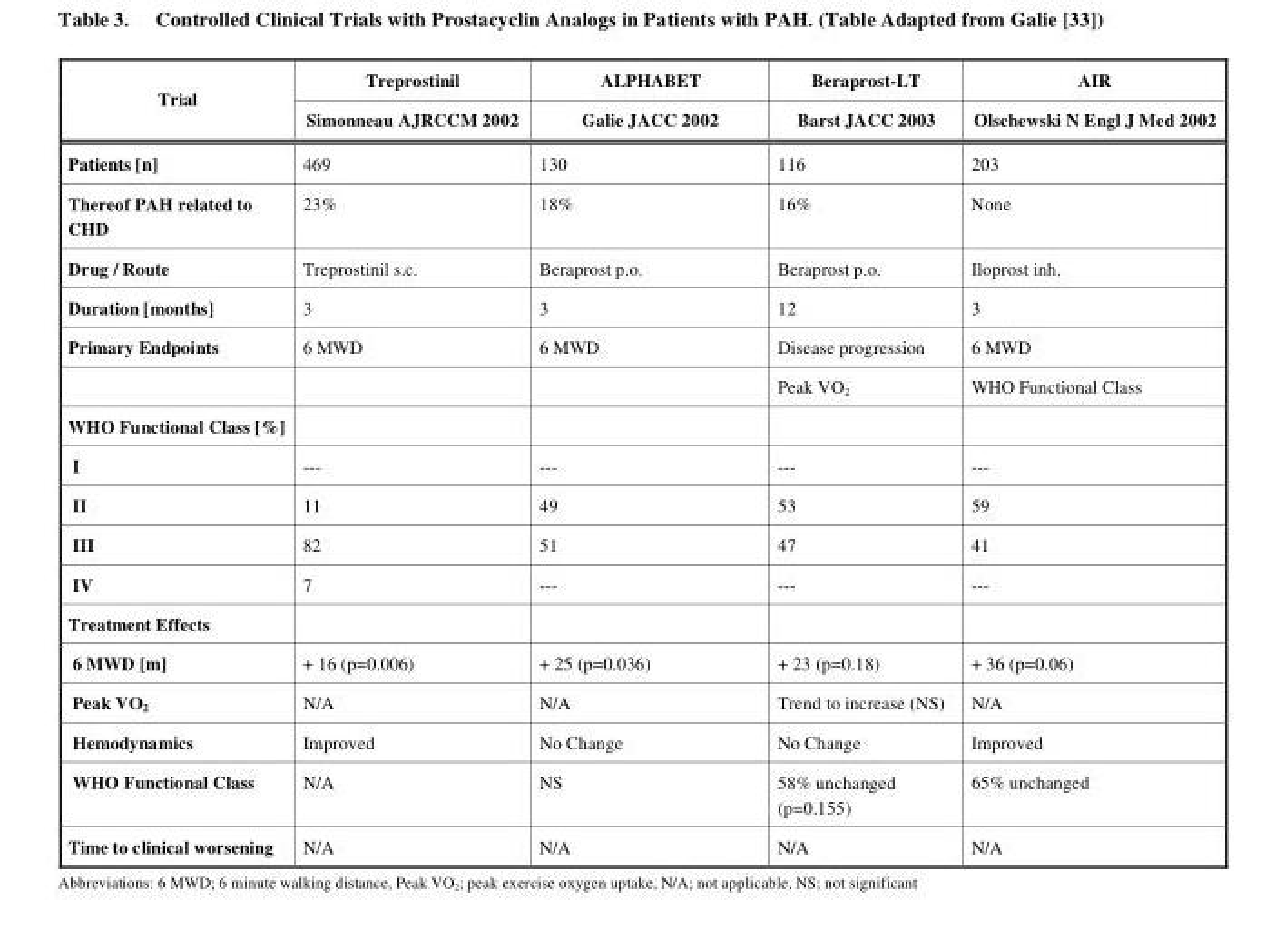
<table><thead><tr><td rowspan="2">Trial</td><td rowspan="2">Treprostinil Simonneau AJRCCM 2002</td><td rowspan="2">ALPHABET Galie JACC 2002</td><td rowspan="2">Beraprost-LT Barst JACC 2003</td><td rowspan="2">AIR Olschewski N Engl J Med 2002</td></tr><tr></tr></thead><tbody><tr><td>Patients [n]</td><td>469</td><td>130</td><td>116</td><td>203</td></tr><tr><td>Thereof PAH related to CHD</td><td>23%</td><td>18%</td><td>16%</td><td>None</td></tr><tr><td>Drug / Route</td><td>Treprostinil s.c.</td><td>Beraprost p.o.</td><td>Beraprost p.o.</td><td>Iloprost inh.</td></tr><tr><td>Duration [months]</td><td>3</td><td>3</td><td>12</td><td>3</td></tr><tr><td rowspan="2">Primary Endpoints</td><td>6 MWD</td><td>6 MWD</td><td>Disease progression</td><td>6 MWD</td></tr><tr><td></td><td></td><td>Peak VO<sub>2</sub></td><td>WHO Functional Class</td></tr><tr><td colspan="5">WHO Functional Class [%]</td></tr><tr><td>I</td><td>---</td><td>---</td><td>---</td><td>---</td></tr><tr><td>II</td><td>11</td><td>49</td><td>53</td><td>59</td></tr><tr><td>III</td><td>82</td><td>51</td><td>47</td><td>41</td></tr><tr><td>IV</td><td>7</td><td>---</td><td>---</td><td>---</td></tr><tr><td colspan="5">Treatment Effects</td></tr><tr><td>6 MWD [m]</td><td>+ 16 (p=0.006)</td><td>+ 25 (p=0.036)</td><td>+ 23 (p=0.18)</td><td>+ 36 (p=0.06)</td></tr><tr><td>Peak VO<sub>2</sub></td><td>N/A</td><td>N/A</td><td>Trend to increase (NS)</td><td>N/A</td></tr><tr><td>Hemodynamics</td><td>Improved</td><td>No Change</td><td>No Change</td><td>Improved</td></tr><tr><td>WHO Functional Class</td><td>N/A</td><td>NS</td><td>58% unchanged (p=0.155)</td><td>65% unchanged</td></tr><tr><td>Time to clinical worsening</td><td>N/A</td><td>N/A</td><td>N/A</td><td>N/A</td></tr></tbody></table>